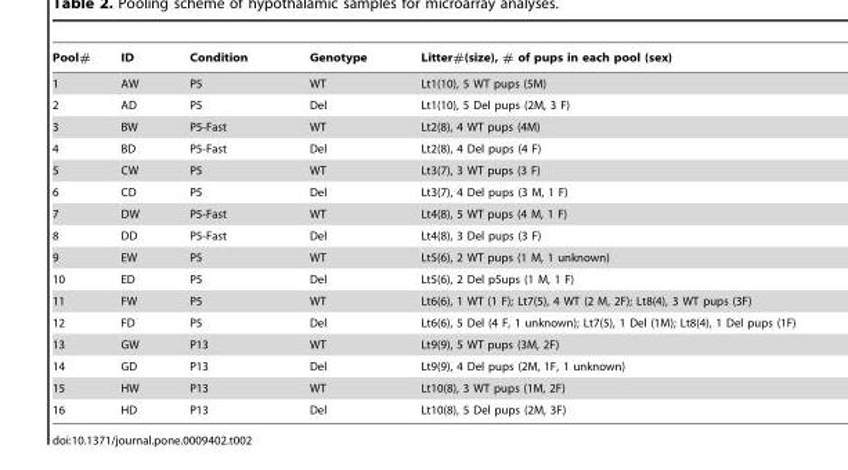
<table><thead><tr><td>Pool#</td><td>ID</td><td>Condition</td><td>Genotype</td><td>Litter#(size), # of pups in each pool (sex)</td></tr></thead><tbody><tr><td>1</td><td>AW</td><td>P5</td><td>WT</td><td>Lt1(10), 5 WT pups (5M)</td></tr><tr><td>2</td><td>AD</td><td>P5</td><td>Del</td><td>Lt1(10), 5 Del pups (2M, 3 F)</td></tr><tr><td>3</td><td>BW</td><td>P5-Fast</td><td>WT</td><td>Lt2(8), 4 WT pups (4M)</td></tr><tr><td>4</td><td>BD</td><td>P5-Fast</td><td>Del</td><td>Lt2(8), 4 Del pups (4 F)</td></tr><tr><td>5</td><td>CW</td><td>P5</td><td>WT</td><td>Lt3(7), 3 WT pups (3 F)</td></tr><tr><td>6</td><td>CD</td><td>P5</td><td>Del</td><td>Lt3(7), 4 Del pups (3 M, 1 F)</td></tr><tr><td>7</td><td>DW</td><td>P5-Fast</td><td>WT</td><td>Lt4(8), 5 WT pups (4 M, 1 F)</td></tr><tr><td>8</td><td>DD</td><td>P5-Fast</td><td>Del</td><td>Lt4(8), 3 Del pups (3 F)</td></tr><tr><td>9</td><td>EW</td><td>P5</td><td>WT</td><td>Lt5(6), 2 WT pups (1 M, 1 unknown)</td></tr><tr><td>10</td><td>ED</td><td>P5</td><td>Del</td><td>Lt5(6), 2 Del p5ups (1 M, 1 F)</td></tr><tr><td>11</td><td>FW</td><td>P5</td><td>WT</td><td>Lt6(6), 1 WT (1 F); Lt7(5), 4 WT (2 M, 2F); Lt8(4), 3 WT pups (3F)</td></tr><tr><td>12</td><td>FD</td><td>P5</td><td>Del</td><td>Lt6(6), 5 Del (4 F, 1 unknown); Lt7(5), 1 Del (1M); Lt8(4), 1 Del pups (1F)</td></tr><tr><td>13</td><td>GW</td><td>P13</td><td>WT</td><td>Lt9(9), 5 WT pups (3M, 2F)</td></tr><tr><td>14</td><td>GD</td><td>P13</td><td>Del</td><td>Lt9(9), 4 Del pups (2M, 1F, 1 unknown)</td></tr><tr><td>15</td><td>HW</td><td>P13</td><td>WT</td><td>Lt10(8), 3 WT pups (1M, 2F)</td></tr><tr><td>16</td><td>HD</td><td>P13</td><td>Del</td><td>Lt10(8), 5 Del pups (2M, 3F)</td></tr></tbody></table>